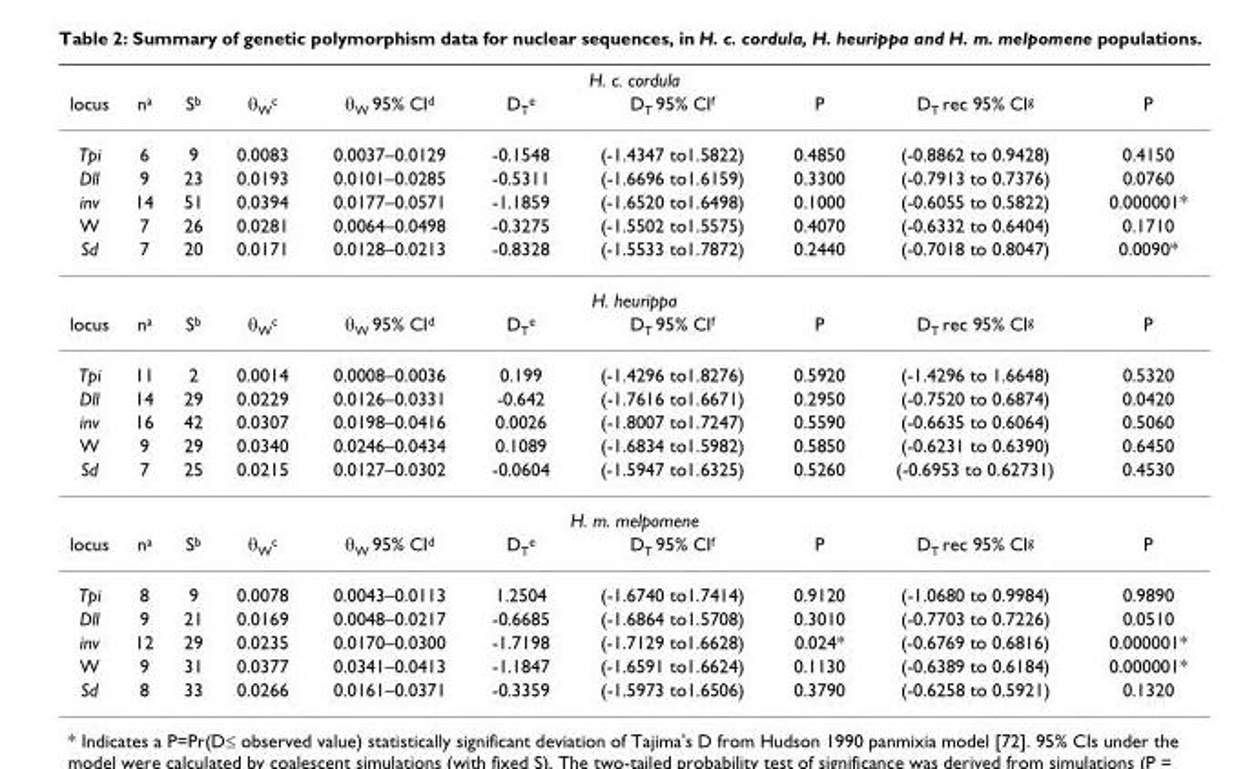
<table><thead><tr><td colspan="10">H. c. cordula</td></tr><tr><td>locus</td><td>n<sup>a</sup></td><td>S<sup>b</sup></td><td>θ<sub>W</sub><sup>c</sup></td><td>θ<sub>W</sub> 95% CI<sup>d</sup></td><td>D<sub>T</sub><sup>e</sup></td><td>D<sub>T</sub> 95% CI<sup>f</sup></td><td>P</td><td>D<sub>T</sub> rec 95% CI<sup>g</sup></td><td>P</td></tr></thead><tbody><tr><td>Tpi</td><td>6</td><td>9</td><td>0.0083</td><td>0.0037–0.0129</td><td>-0.1548</td><td>(-1.4347 to1.5822)</td><td>0.4850</td><td>(-0.8862 to 0.9428)</td><td>0.4150</td></tr><tr><td>Dll</td><td>9</td><td>23</td><td>0.0193</td><td>0.0101–0.0285</td><td>-0.5311</td><td>(-1.6696 to1.6159)</td><td>0.3300</td><td>(-0.7913 to 0.7376)</td><td>0.0760</td></tr><tr><td>inv</td><td>14</td><td>51</td><td>0.0394</td><td>0.0177–0.0571</td><td>-1.1859</td><td>(-1.6520 to1.6498)</td><td>0.1000</td><td>(-0.6055 to 0.5822)</td><td>0.000001*</td></tr><tr><td>W</td><td>7</td><td>26</td><td>0.0281</td><td>0.0064–0.0498</td><td>-0.3275</td><td>(-1.5502 to1.5575)</td><td>0.4070</td><td>(-0.6332 to 0.6404)</td><td>0.1710</td></tr><tr><td>Sd</td><td>7</td><td>20</td><td>0.0171</td><td>0.0128–0.0213</td><td>-0.8328</td><td>(-1.5533 to1.7872)</td><td>0.2440</td><td>(-0.7018 to 0.8047)</td><td>0.0090*</td></tr><tr><td colspan="10">H. heurippa</td></tr><tr><td>locus</td><td>n<sup>a</sup></td><td>S<sup>b</sup></td><td>θ<sub>W</sub><sup>c</sup></td><td>θ<sub>W</sub> 95% CI<sup>d</sup></td><td>D<sub>T</sub><sup>e</sup></td><td>D<sub>T</sub> 95% CI<sup>f</sup></td><td>P</td><td>D<sub>T</sub> rec 95% CI<sup>g</sup></td><td>P</td></tr><tr><td>Tpi</td><td>11</td><td>2</td><td>0.0014</td><td>0.0008–0.0036</td><td>0.199</td><td>(-1.4296 to1.8276)</td><td>0.5920</td><td>(-1.4296 to 1.6648)</td><td>0.5320</td></tr><tr><td>Dll</td><td>14</td><td>29</td><td>0.0229</td><td>0.0126–0.0331</td><td>-0.642</td><td>(-1.7616 to1.6671)</td><td>0.2950</td><td>(-0.7520 to 0.6874)</td><td>0.0420</td></tr><tr><td>inv</td><td>16</td><td>42</td><td>0.0307</td><td>0.0198–0.0416</td><td>0.0026</td><td>(-1.8007 to1.7247)</td><td>0.5590</td><td>(-0.6635 to 0.6064)</td><td>0.5060</td></tr><tr><td>W</td><td>9</td><td>29</td><td>0.0340</td><td>0.0246–0.0434</td><td>0.1089</td><td>(-1.6834 to1.5982)</td><td>0.5850</td><td>(-0.6231 to 0.6390)</td><td>0.6450</td></tr><tr><td>Sd</td><td>7</td><td>25</td><td>0.0215</td><td>0.0127–0.0302</td><td>-0.0604</td><td>(-1.5947 to1.6325)</td><td>0.5260</td><td>(-0.6953 to 0.62731)</td><td>0.4530</td></tr><tr><td colspan="10">H. m. melpomene</td></tr><tr><td>locus</td><td>n<sup>a</sup></td><td>S<sup>b</sup></td><td>θ<sub>W</sub><sup>c</sup></td><td>θ<sub>W</sub> 95% CI<sup>d</sup></td><td>D<sub>T</sub><sup>e</sup></td><td>D<sub>T</sub> 95% CI<sup>f</sup></td><td>P</td><td>D<sub>T</sub> rec 95% CI<sup>g</sup></td><td>P</td></tr><tr><td>Tpi</td><td>8</td><td>9</td><td>0.0078</td><td>0.0043–0.0113</td><td>1.2504</td><td>(-1.6740 to1.7414)</td><td>0.9120</td><td>(-1.0680 to 0.9984)</td><td>0.9890</td></tr><tr><td>Dll</td><td>9</td><td>21</td><td>0.0169</td><td>0.0048–0.0217</td><td>-0.6685</td><td>(-1.6864 to1.5708)</td><td>0.3010</td><td>(-0.7703 to 0.7226)</td><td>0.0510</td></tr><tr><td>inv</td><td>12</td><td>29</td><td>0.0235</td><td>0.0170–0.0300</td><td>-1.7198</td><td>(-1.7129 to1.6628)</td><td>0.024*</td><td>(-0.6769 to 0.6816)</td><td>0.000001*</td></tr><tr><td>W</td><td>9</td><td>31</td><td>0.0377</td><td>0.0341–0.0413</td><td>-1.1847</td><td>(-1.6591 to1.6624)</td><td>0.1130</td><td>(-0.6389 to 0.6184)</td><td>0.000001*</td></tr><tr><td>Sd</td><td>8</td><td>33</td><td>0.0266</td><td>0.0161–0.0371</td><td>-0.3359</td><td>(-1.5973 to1.6506)</td><td>0.3790</td><td>(-0.6258 to 0.5921)</td><td>0.1320</td></tr></tbody></table>